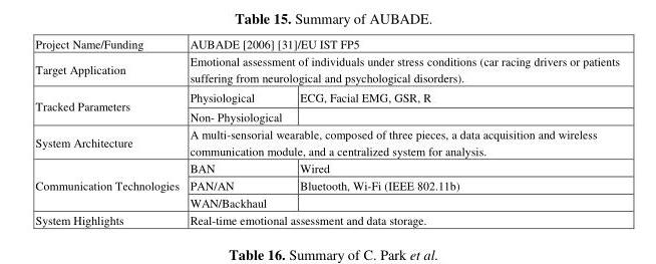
<table><tbody><tr><td>Project Name/Funding</td><td colspan="2">AUBADE [2006] [31]/EU IST FP5</td></tr><tr><td>Target Application</td><td colspan="2">Emotional assessment of individuals under stress conditions (car racing drivers or patients suffering from neurological and psychological disorders).</td></tr><tr><td rowspan="2">Tracked Parameters</td><td>Physiological</td><td>ECG, Facial EMG, GSR, R</td></tr><tr><td>Non- Physiological</td><td></td></tr><tr><td>System Architecture</td><td colspan="2">A multi-sensorial wearable, composed of three pieces, a data acquisition and wireless communication module, and a centralized system for analysis.</td></tr><tr><td rowspan="3">Communication Technologies</td><td>BAN</td><td>Wired</td></tr><tr><td>PAN/AN</td><td>Bluetooth, Wi-Fi (IEEE 802.11b)</td></tr><tr><td>WAN/Backhaul</td><td></td></tr><tr><td>System Highlights</td><td colspan="2">Real-time emotional assessment and data storage.</td></tr></tbody></table>